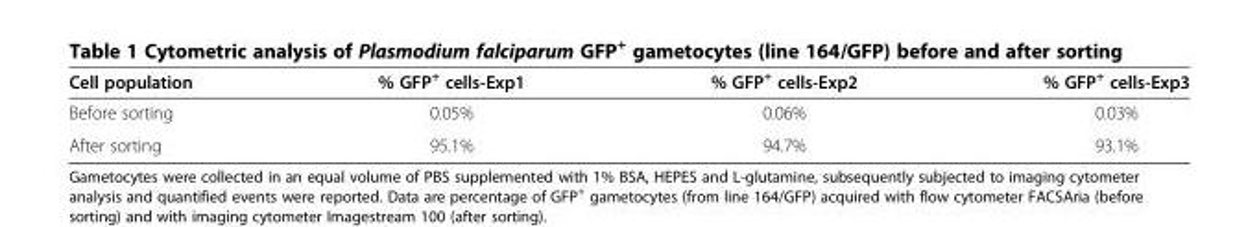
<table><thead><tr><td>Cell population</td><td>% GFP<sup>+</sup> cells-Exp1</td><td>% GFP<sup>+</sup> cells-Exp2</td><td>% GFP<sup>+</sup> cells-Exp3</td></tr></thead><tbody><tr><td>Before sorting</td><td>0.05%</td><td>0.06%</td><td>0.03%</td></tr><tr><td>After sorting</td><td>95.1%</td><td>94.7%</td><td>93.1%</td></tr></tbody></table>